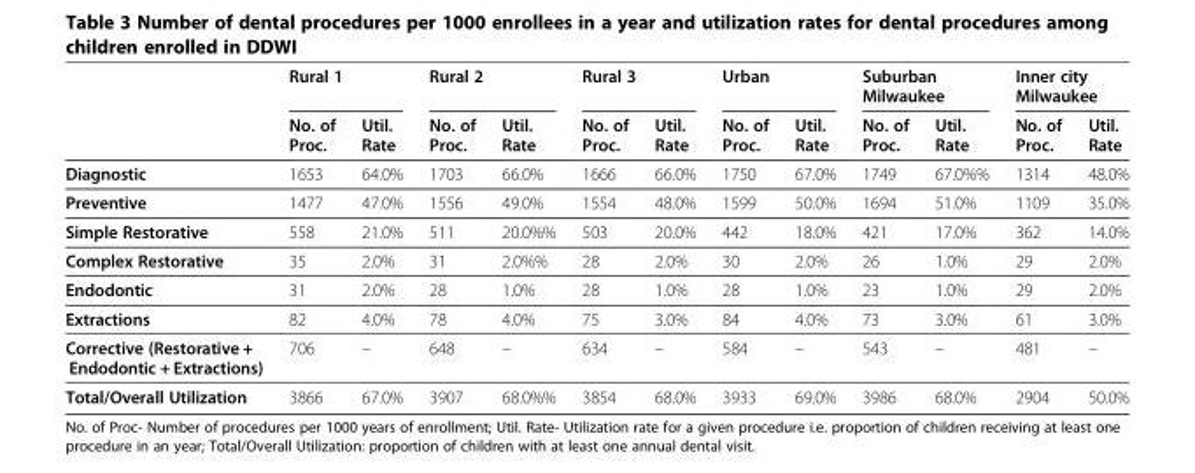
<table><thead><tr><td rowspan="2"></td><td colspan="2">Rural 1</td><td colspan="2">Rural 2</td><td colspan="2">Rural 3</td><td colspan="2">Urban</td><td colspan="2">Suburban Milwaukee</td><td colspan="2">Inner city Milwaukee</td></tr><tr><td>No. of Proc.</td><td>Util. Rate</td><td>No. of Proc.</td><td>Util. Rate</td><td>No. of Proc.</td><td>Util. Rate</td><td>No. of Proc.</td><td>Util. Rate</td><td>No. of Proc.</td><td>Util. Rate</td><td>No. of Proc.</td><td>Util. Rate</td></tr></thead><tbody><tr><td>Diagnostic</td><td>1653</td><td>64.0%</td><td>1703</td><td>66.0%</td><td>1666</td><td>66.0%</td><td>1750</td><td>67.0%</td><td>1749</td><td>67.0%%</td><td>1314</td><td>48.0%</td></tr><tr><td>Preventive</td><td>1477</td><td>47.0%</td><td>1556</td><td>49.0%</td><td>1554</td><td>48.0%</td><td>1599</td><td>50.0%</td><td>1694</td><td>51.0%</td><td>1109</td><td>35.0%</td></tr><tr><td>Simple Restorative</td><td>558</td><td>21.0%</td><td>511</td><td>20.0%%</td><td>503</td><td>20.0%</td><td>442</td><td>18.0%</td><td>421</td><td>17.0%</td><td>362</td><td>14.0%</td></tr><tr><td>Complex Restorative</td><td>35</td><td>2.0%</td><td>31</td><td>2.0%%</td><td>28</td><td>2.0%</td><td>30</td><td>2.0%</td><td>26</td><td>1.0%</td><td>29</td><td>2.0%</td></tr><tr><td>Endodontic</td><td>31</td><td>2.0%</td><td>28</td><td>1.0%</td><td>28</td><td>1.0%</td><td>28</td><td>1.0%</td><td>23</td><td>1.0%</td><td>29</td><td>2.0%</td></tr><tr><td>Extractions</td><td>82</td><td>4.0%</td><td>78</td><td>4.0%</td><td>75</td><td>3.0%</td><td>84</td><td>4.0%</td><td>73</td><td>3.0%</td><td>61</td><td>3.0%</td></tr><tr><td>Corrective (Restorative + Endodontic + Extractions)</td><td>706</td><td>–</td><td>648</td><td>–</td><td>634</td><td>–</td><td>584</td><td>–</td><td>543</td><td>–</td><td>481</td><td>–</td></tr><tr><td>Total/Overall Utilization</td><td>3866</td><td>67.0%</td><td>3907</td><td>68.0%%</td><td>3854</td><td>68.0%</td><td>3933</td><td>69.0%</td><td>3986</td><td>68.0%</td><td>2904</td><td>50.0%</td></tr></tbody></table>